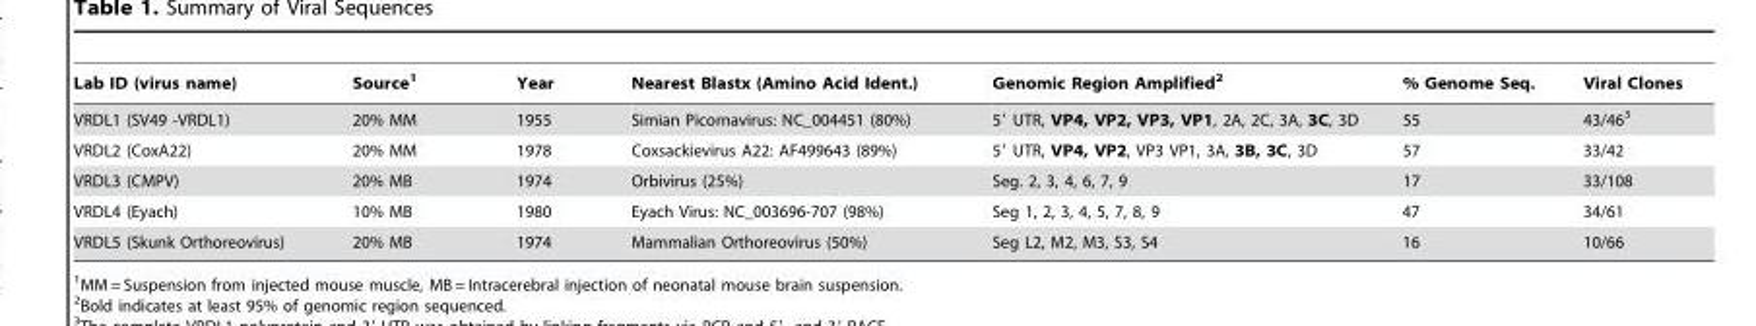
<table><thead><tr><td>Lab ID (virus name)</td><td>Source<sup>1</sup></td><td>Year</td><td>Nearest Blastx (Amino Acid Ident.)</td><td>Genomic Region Amplified<sup>2</sup></td><td>% Genome Seq.</td><td>Viral Clones</td></tr></thead><tbody><tr><td>VRDL1 (SV49 -VRDL1)</td><td>20% MM</td><td>1955</td><td>Simian Picornavirus: NC_004451 (80%)</td><td>5′ UTR, VP4, VP2, VP3, VP1, 2A, 2C, 3A, 3C, 3D</td><td>55</td><td>43/46<sup>3</sup></td></tr><tr><td>VRDL2 (CoxA22)</td><td>20% MM</td><td>1978</td><td>Coxsackievirus A22: AF499643 (89%)</td><td>5′ UTR, VP4, VP2, VP3 VP1, 3A, 3B, 3C, 3D</td><td>57</td><td>33/42</td></tr><tr><td>VRDL3 (CMPV)</td><td>20% MB</td><td>1974</td><td>Orbivirus (25%)</td><td>Seg. 2, 3, 4, 6, 7, 9</td><td>17</td><td>33/108</td></tr><tr><td>VRDL4 (Eyach)</td><td>10% MB</td><td>1980</td><td>Eyach Virus: NC_003696-707 (98%)</td><td>Seg 1, 2, 3, 4, 5, 7, 8, 9</td><td>47</td><td>34/61</td></tr><tr><td>VRDL5 (Skunk Orthoreovirus)</td><td>20% MB</td><td>1974</td><td>Mammalian Orthoreovirus (50%)</td><td>Seg L2, M2, M3, S3, S4</td><td>16</td><td>10/66</td></tr></tbody></table>